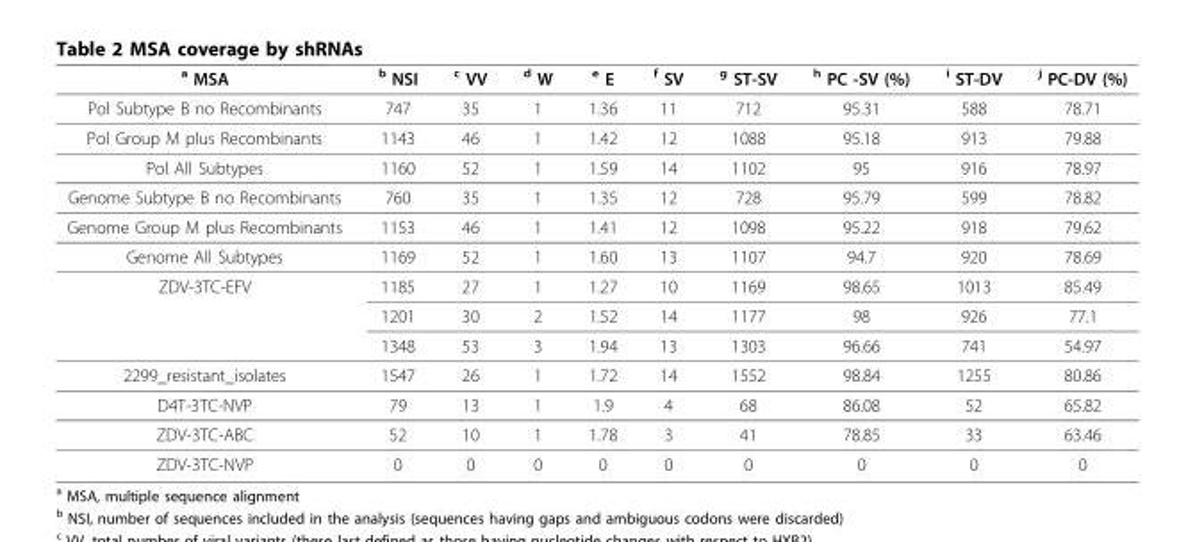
<table><thead><tr><td><sup>a</sup> MSA</td><td><sup>b</sup> NSI</td><td><sup>c</sup> VV</td><td><sup>d</sup> W</td><td><sup>e</sup> E</td><td><sup>f</sup> SV</td><td><sup>g</sup> ST-SV</td><td><sup>h</sup> PC -SV (%)</td><td><sup>i</sup> ST-DV</td><td><sup>j</sup> PC-DV (%)</td></tr></thead><tbody><tr><td>Pol Subtype B no Recombinants</td><td>747</td><td>35</td><td>1</td><td>1.36</td><td>11</td><td>712</td><td>95.31</td><td>588</td><td>78.71</td></tr><tr><td>Pol Group M plus Recombinants</td><td>1143</td><td>46</td><td>1</td><td>1.42</td><td>12</td><td>1088</td><td>95.18</td><td>913</td><td>79.88</td></tr><tr><td>Pol All Subtypes</td><td>1160</td><td>52</td><td>1</td><td>1.59</td><td>14</td><td>1102</td><td>95</td><td>916</td><td>78.97</td></tr><tr><td>Genome Subtype B no Recombinants</td><td>760</td><td>35</td><td>1</td><td>1.35</td><td>12</td><td>728</td><td>95.79</td><td>599</td><td>78.82</td></tr><tr><td>Genome Group M plus Recombinants</td><td>1153</td><td>46</td><td>1</td><td>1.41</td><td>12</td><td>1098</td><td>95.22</td><td>918</td><td>79.62</td></tr><tr><td>Genome All Subtypes</td><td>1169</td><td>52</td><td>1</td><td>1.60</td><td>13</td><td>1107</td><td>94.7</td><td>920</td><td>78.69</td></tr><tr><td rowspan="3">ZDV-3TC-EFV</td><td>1185</td><td>27</td><td>1</td><td>1.27</td><td>10</td><td>1169</td><td>98.65</td><td>1013</td><td>85.49</td></tr><tr><td>1201</td><td>30</td><td>2</td><td>1.52</td><td>14</td><td>1177</td><td>98</td><td>926</td><td>77.1</td></tr><tr><td>1348</td><td>53</td><td>3</td><td>1.94</td><td>13</td><td>1303</td><td>96.66</td><td>741</td><td>54.97</td></tr><tr><td>2299_resistant_isolates</td><td>1547</td><td>26</td><td>1</td><td>1.72</td><td>14</td><td>1552</td><td>98.84</td><td>1255</td><td>80.86</td></tr><tr><td>D4T-3TC-NVP</td><td>79</td><td>13</td><td>1</td><td>1.9</td><td>4</td><td>68</td><td>86.08</td><td>52</td><td>65.82</td></tr><tr><td>ZDV-3TC-ABC</td><td>52</td><td>10</td><td>1</td><td>1.78</td><td>3</td><td>41</td><td>78.85</td><td>33</td><td>63.46</td></tr><tr><td>ZDV-3TC-NVP</td><td>0</td><td>0</td><td>0</td><td>0</td><td>0</td><td>0</td><td>0</td><td>0</td><td>0</td></tr></tbody></table>